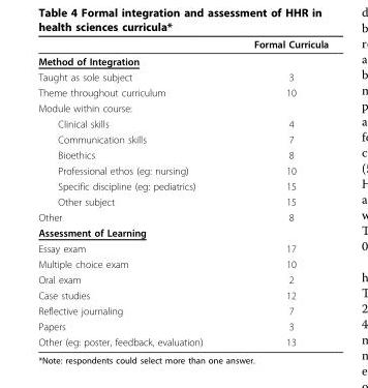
<table><thead><tr><td></td><td>Formal Curricula</td></tr></thead><tbody><tr><td colspan="2">Method of Integration</td></tr><tr><td>Taught as sole subject</td><td>3</td></tr><tr><td>Theme throughout curriculum</td><td>10</td></tr><tr><td colspan="2">Module within course:</td></tr><tr><td>Clinical skills</td><td>4</td></tr><tr><td>Communication skills</td><td>7</td></tr><tr><td>Bioethics</td><td>8</td></tr><tr><td>Professional ethos (eg: nursing)</td><td>10</td></tr><tr><td>Specific discipline (eg: pediatrics)</td><td>15</td></tr><tr><td>Other subject</td><td>15</td></tr><tr><td>Other</td><td>8</td></tr><tr><td colspan="2">Assessment of Learning</td></tr><tr><td>Essay exam</td><td>17</td></tr><tr><td>Multiple choice exam</td><td>10</td></tr><tr><td>Oral exam</td><td>2</td></tr><tr><td>Case studies</td><td>12</td></tr><tr><td>Reflective journaling</td><td>7</td></tr><tr><td>Papers</td><td>3</td></tr><tr><td>Other (eg: poster, feedback, evaluation)</td><td>13</td></tr></tbody></table>